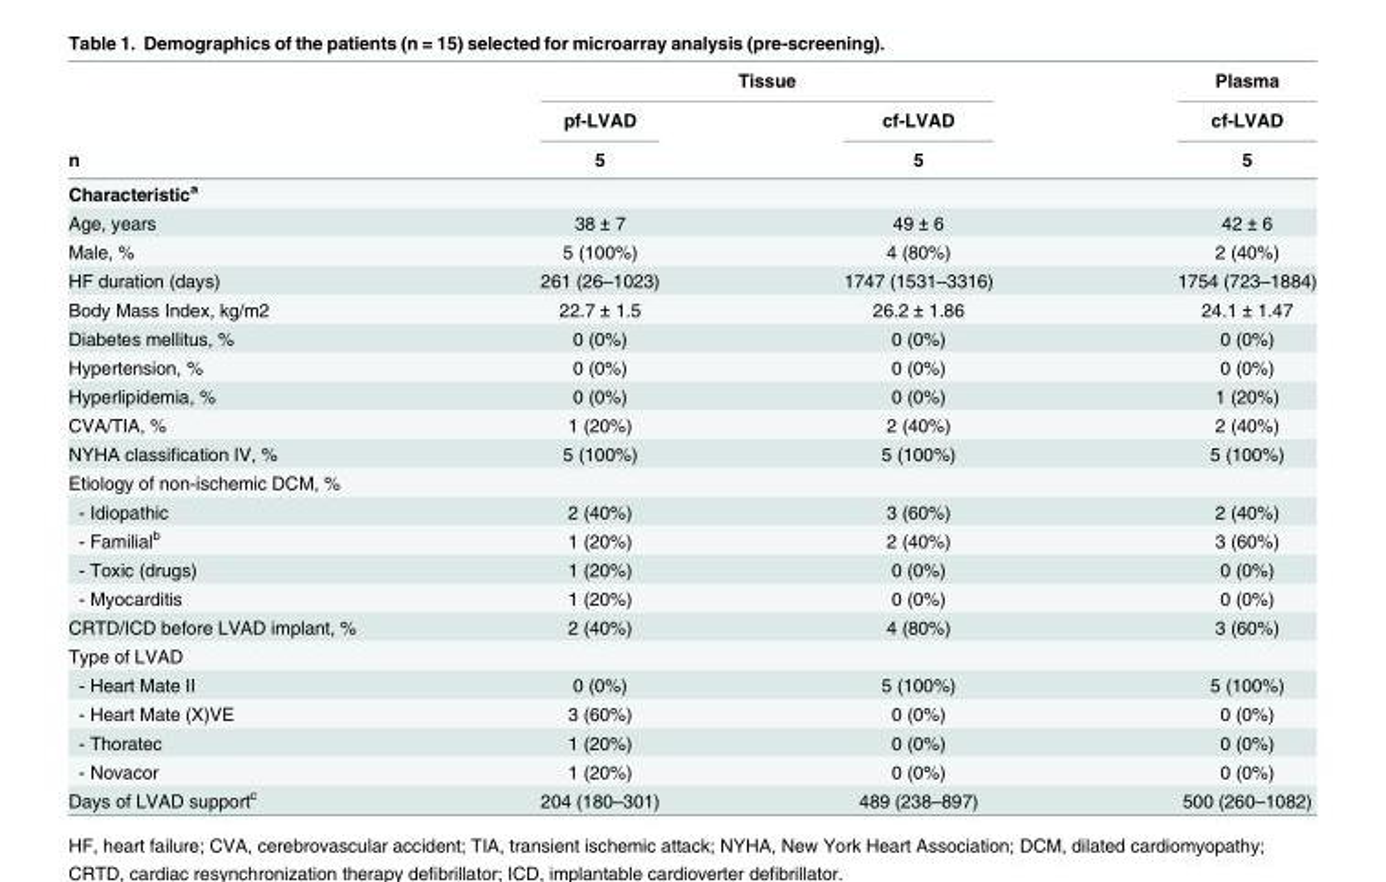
<table><thead><tr><td rowspan="4">n Characteristic<sup>a</sup></td><td colspan="2">Tissue</td><td rowspan="4">Plasma cf-LVAD 5</td></tr><tr><td rowspan="3">pf-LVAD 5</td><td rowspan="3">cf-LVAD 5</td></tr><tr></tr><tr></tr></thead><tbody><tr><td>Age, years</td><td>38 ± 7</td><td>49 ± 6</td><td>42 ± 6</td></tr><tr><td>Male, %</td><td>5 (100%)</td><td>4 (80%)</td><td>2 (40%)</td></tr><tr><td>HF duration (days)</td><td>261 (26–1023)</td><td>1747 (1531–3316)</td><td>1754 (723–1884)</td></tr><tr><td>Body Mass Index, kg/m2</td><td>22.7 ± 1.5</td><td>26.2 ± 1.86</td><td>24.1 ± 1.47</td></tr><tr><td>Diabetes mellitus, %</td><td>0 (0%)</td><td>0 (0%)</td><td>0 (0%)</td></tr><tr><td>Hypertension, %</td><td>0 (0%)</td><td>0 (0%)</td><td>0 (0%)</td></tr><tr><td>Hyperlipidemia, %</td><td>0 (0%)</td><td>0 (0%)</td><td>1 (20%)</td></tr><tr><td>CVA/TIA, %</td><td>1 (20%)</td><td>2 (40%)</td><td>2 (40%)</td></tr><tr><td>NYHA classification IV, %</td><td>5 (100%)</td><td>5 (100%)</td><td>5 (100%)</td></tr><tr><td colspan="4">Etiology of non-ischemic DCM, %</td></tr><tr><td>- Idiopathic</td><td>2 (40%)</td><td>3 (60%)</td><td>2 (40%)</td></tr><tr><td>- Familial<sup>b</sup></td><td>1 (20%)</td><td>2 (40%)</td><td>3 (60%)</td></tr><tr><td>- Toxic (drugs)</td><td>1 (20%)</td><td>0 (0%)</td><td>0 (0%)</td></tr><tr><td>- Myocarditis</td><td>1 (20%)</td><td>0 (0%)</td><td>0 (0%)</td></tr><tr><td>CRTD/ICD before LVAD implant, %</td><td>2 (40%)</td><td>4 (80%)</td><td>3 (60%)</td></tr><tr><td colspan="4">Type of LVAD</td></tr><tr><td>- Heart Mate II</td><td>0 (0%)</td><td>5 (100%)</td><td>5 (100%)</td></tr><tr><td>- Heart Mate (X)VE</td><td>3 (60%)</td><td>0 (0%)</td><td>0 (0%)</td></tr><tr><td>- Thoratec</td><td>1 (20%)</td><td>0 (0%)</td><td>0 (0%)</td></tr><tr><td>- Novacor</td><td>1 (20%)</td><td>0 (0%)</td><td>0 (0%)</td></tr><tr><td>Days of LVAD support<sup>c</sup></td><td>204 (180–301)</td><td>489 (238–897)</td><td>500 (260–1082)</td></tr></tbody></table>